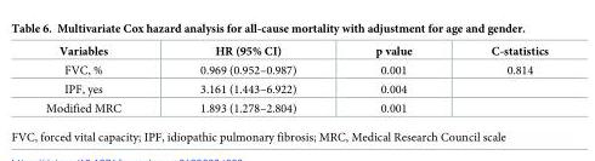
<table><thead><tr><td>Variables</td><td>HR (95% CI)</td><td>p value</td><td>C-statistics</td></tr></thead><tbody><tr><td>FVC, %</td><td>0.969 (0.952–0.987)</td><td>0.001</td><td>0.814</td></tr><tr><td>IPF, yes</td><td>3.161 (1.443–6.922)</td><td>0.004</td><td></td></tr><tr><td>Modified MRC</td><td>1.893 (1.278–2.804)</td><td>0.001</td><td></td></tr></tbody></table>